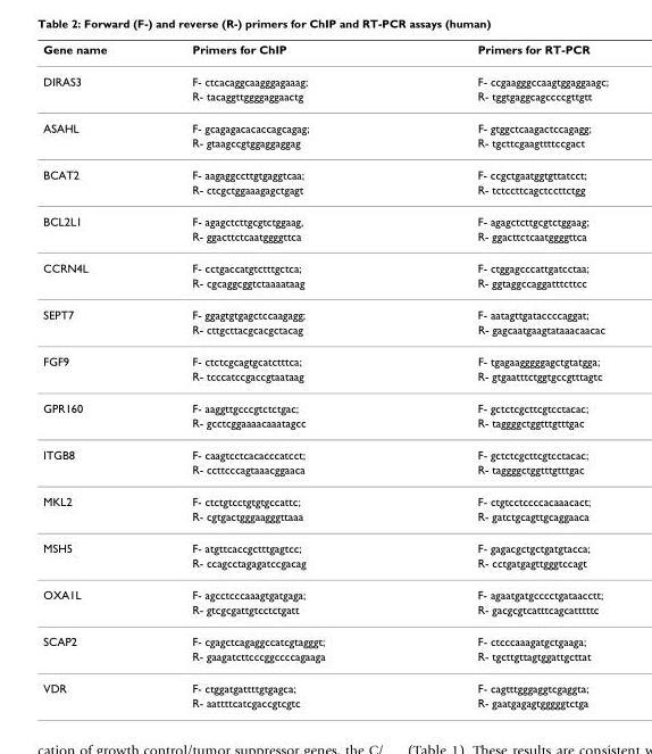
<table><thead><tr><td>Gene name</td><td>Primers for ChIP</td><td>Primers for RT-PCR</td></tr></thead><tbody><tr><td rowspan="2">DIRAS3</td><td>F- ctcacaggcaagggagaaag;</td><td>F- ccgaagggccaagtggaggaagc;</td></tr><tr><td>R- tacaggttggggaggaactg</td><td>R- tggtgaggcagccccgttgtt</td></tr><tr><td rowspan="2">ASAHL</td><td>F- gcagagacacaccagcagag;</td><td>F- gtggctcaagactccagagg;</td></tr><tr><td>R- gtaagccgtggaggaggag</td><td>R- tgcttcgaagttttccgact</td></tr><tr><td rowspan="2">BCAT2</td><td>F- aagaggccttgtgaggtcaa;</td><td>F- ccgctgaatggtgttatcct;</td></tr><tr><td>R- ctcgctggaaagagctgagt</td><td>R- tctccttcagctccttctgg</td></tr><tr><td rowspan="2">BCL2L1</td><td>F- agagctcttgcgtctggaag,</td><td>F- agagctcttgcgtctggaag;</td></tr><tr><td>R- ggacttctcaatggggttca</td><td>R- ggacttctcaatggggttca</td></tr><tr><td rowspan="2">CCRN4L</td><td>F- cctgaccatgtctttgctca;</td><td>F- ctggagcccattgatcctaa;</td></tr><tr><td>R- cgcaggcggtctaaaataag</td><td>R- ggtaggccaggatttcttcc</td></tr><tr><td rowspan="2">SEPT7</td><td>F- ggagtgtgagctccaagagg;</td><td>F- aatagttgataccccaggat;</td></tr><tr><td>R- cttgcttacgcacgctacag</td><td>R- gagcaatgaagtataaacaacac</td></tr><tr><td rowspan="2">FGF9</td><td>F- ctctcgcagtgcatctttca;</td><td>F- tgagaagggggagctgtatgga;</td></tr><tr><td>R- tcccatccgaccgtaataag</td><td>R- gtgaatttctggtgccgtttagtc</td></tr><tr><td rowspan="2">GPR160</td><td>F- aaggttgcccgtctctgac;</td><td>F- gctctcgcttcgtcctacac;</td></tr><tr><td>R- gcctcggaaaacaaatagcc</td><td>R- taggggctggtttgtttgac</td></tr><tr><td rowspan="2">ITGB8</td><td>F- caagtcctcacacccatcct;</td><td>F- gctctcgcttcgtcctacac;</td></tr><tr><td>R- ccttcccagtaaacggaaca</td><td>R- taggggctggtttgtttgac</td></tr><tr><td rowspan="2">MKL2</td><td>F- ctctgtcctgtgtgccattc;</td><td>F- ctgtcctccccacaaacact;</td></tr><tr><td>R- cgtgactgggaagggttaaa</td><td>R- gatctgcagttgcaggaaca</td></tr><tr><td rowspan="2">MSH5</td><td>F- atgttcaccgctttgagtcc;</td><td>F- gagacgctgctgatgtacca;</td></tr><tr><td>R- ccagcctagagatccgacag</td><td>R- cctgatgagttgggtccagt</td></tr><tr><td rowspan="2">OXA1L</td><td>F- agcctcccaaagtgatgaga;</td><td>F- agaatgatgcccctgataacctt;</td></tr><tr><td>R- gtcgcgattgtcctctgatt</td><td>R- gacgcgtcatttcagcatttttc</td></tr><tr><td rowspan="2">SCAP2</td><td>F- cgagctcagaggccatcgtagggt;</td><td>F- ctcccaaagatgctgaaga;</td></tr><tr><td>R- gaagatcttcccggccccagaaga</td><td>R- tgcttgttagtggattgcttat</td></tr><tr><td rowspan="2">VDR</td><td>F- ctggatgattttgtgagca;</td><td>F- cagtttgggaggtcgaggta;</td></tr><tr><td>R- aattttcatcgaccgtcgtc</td><td>R- gaatgagagtgggggtctga</td></tr></tbody></table>